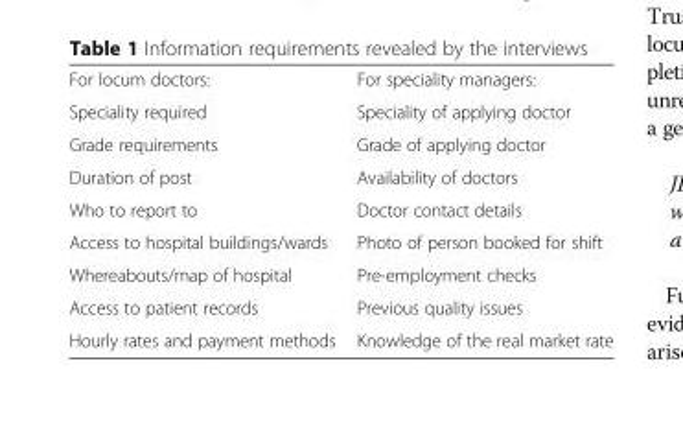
<table><tbody><tr><td>For locum doctors:</td><td>For speciality managers:</td></tr><tr><td>Speciality required</td><td>Speciality of applying doctor</td></tr><tr><td>Grade requirements</td><td>Grade of applying doctor</td></tr><tr><td>Duration of post</td><td>Availability of doctors</td></tr><tr><td>Who to report to</td><td>Doctor contact details</td></tr><tr><td>Access to hospital buildings/wards</td><td>Photo of person booked for shift</td></tr><tr><td>Whereabouts/map of hospital</td><td>Pre-employment checks</td></tr><tr><td>Access to patient records</td><td>Previous quality issues</td></tr><tr><td>Hourly rates and payment methods</td><td>Knowledge of the real market rate</td></tr></tbody></table>